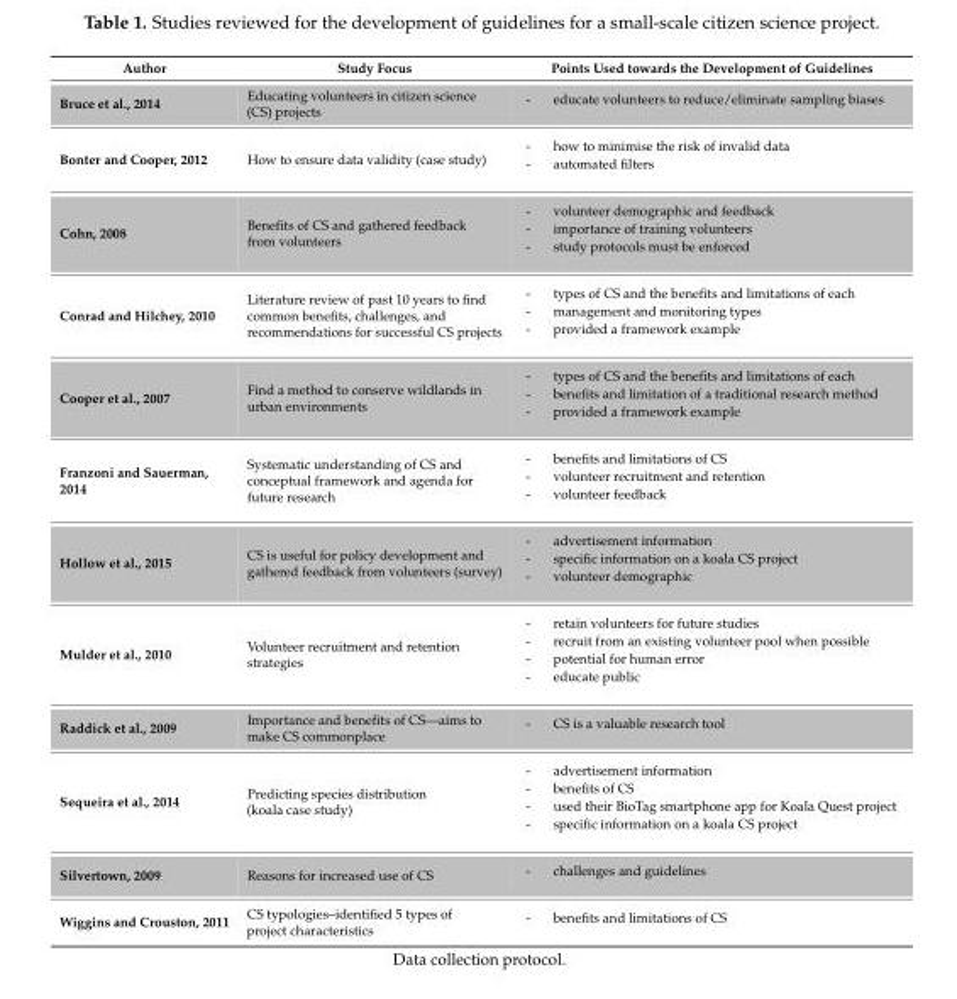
<table><thead><tr><td>Author</td><td>Study Focus</td><td>Points Used towards the Development of Guidelines</td></tr></thead><tbody><tr><td>Bruce et al., 2014</td><td>Educating volunteers in citizen science (CS) projects</td><td>- educate volunteers to reduce/eliminate sampling biases</td></tr><tr><td>Bonter and Cooper, 2012</td><td>How to ensure data validity (case study)</td><td>- how to minimise the risk of invalid data - automated filters</td></tr><tr><td>Cohn, 2008</td><td>Benefits of CS and gathered feedback from volunteers</td><td>- volunteer demographic and feedback - importance of training volunteers - study protocols must be enforced</td></tr><tr><td>Conrad and Hilchey, 2010</td><td>Literature review of past 10 years to find common benefits, challenges, and recommendations for successful CS projects</td><td>- types of CS and the benefits and limitations of each - management and monitoring types - provided a framework example</td></tr><tr><td>Cooper et al., 2007</td><td>Find a method to conserve wildlands in urban environments</td><td>- types of CS and the benefits and limitations of each - benefits and limitation of a traditional research method - provided a framework example</td></tr><tr><td>Franzoni and Sauerman, 2014</td><td>Systematic understanding of CS and conceptual framework and agenda for future research</td><td>- benefits and limitations of CS - volunteer recruitment and retention - volunteer feedback</td></tr><tr><td>Hollow et al., 2015</td><td>CS is useful for policy development and gathered feedback from volunteers (survey)</td><td>- advertisement information - specific information on a koala CS project - volunteer demographic</td></tr><tr><td>Mulder et al., 2010</td><td>Volunteer recruitment and retention strategies</td><td>- retain volunteers for future studies - recruit from an existing volunteer pool when possible - potential for human error - educate public</td></tr><tr><td>Raddick et al., 2009</td><td>Importance and benefits of CS—aims to make CS commonplace</td><td>- CS is a valuable research tool</td></tr><tr><td>Sequeira et al., 2014</td><td>Predicting species distribution (koala case study)</td><td>- advertisement information - benefits of CS - used their BioTag smartphone app for Koala Quest project - specific information on a koala CS project</td></tr><tr><td>Silvertown, 2009</td><td>Reasons for increased use of CS</td><td>- challenges and guidelines</td></tr><tr><td>Wiggins and Crouston, 2011</td><td>CS typologies–identified 5 types of project characteristics</td><td>- benefits and limitations of CS</td></tr></tbody></table>